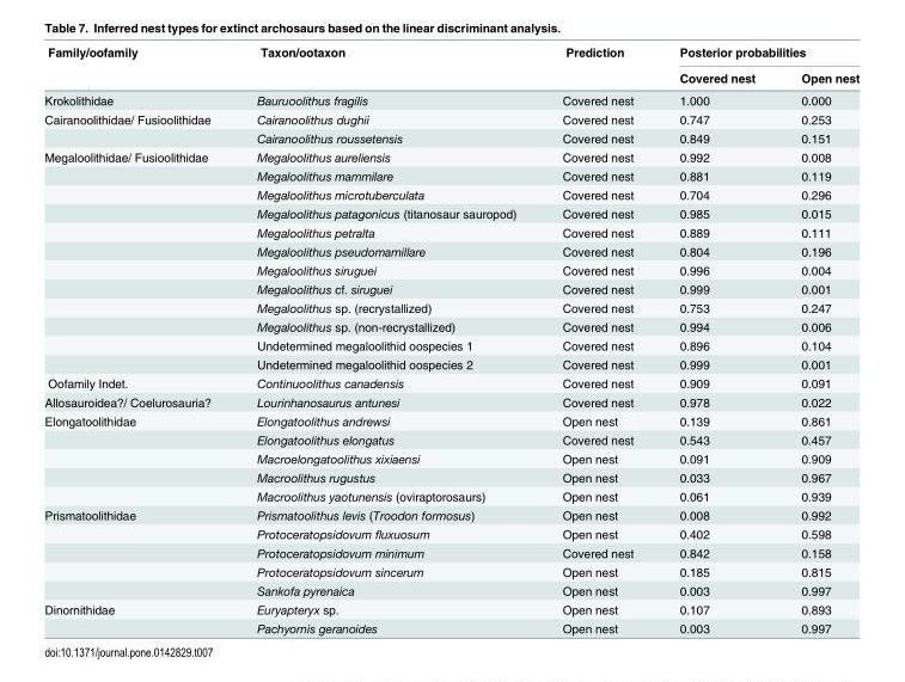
<table><thead><tr><td rowspan="2">Family/oofamily</td><td rowspan="2">Taxon/ootaxon</td><td rowspan="2">Prediction</td><td colspan="2">Posterior probabilities</td></tr><tr><td>Covered nest</td><td>Open nest</td></tr></thead><tbody><tr><td>Krokolithidae</td><td>Bauruoolithus fragilis</td><td>Covered nest</td><td>1.000</td><td>0.000</td></tr><tr><td rowspan="2">Cairanoolithidae/ Fusioolithidae</td><td>Cairanoolithus dughii</td><td>Covered nest</td><td>0.747</td><td>0.253</td></tr><tr><td>Cairanoolithus roussetensis</td><td>Covered nest</td><td>0.849</td><td>0.151</td></tr><tr><td rowspan="12">Megaloolithidae/ Fusioolithidae</td><td>Megaloolithus aureliensis</td><td>Covered nest</td><td>0.992</td><td>0.008</td></tr><tr><td>Megaloolithus mammilare</td><td>Covered nest</td><td>0.881</td><td>0.119</td></tr><tr><td>Megaloolithus microtuberculata</td><td>Covered nest</td><td>0.704</td><td>0.296</td></tr><tr><td>Megaloolithus patagonicus (titanosaur sauropod)</td><td>Covered nest</td><td>0.985</td><td>0.015</td></tr><tr><td>Megaloolithus petralta</td><td>Covered nest</td><td>0.889</td><td>0.111</td></tr><tr><td>Megaloolithus pseudomamillare</td><td>Covered nest</td><td>0.804</td><td>0.196</td></tr><tr><td>Megaloolithus siruguei</td><td>Covered nest</td><td>0.996</td><td>0.004</td></tr><tr><td>Megaloolithus cf. siruguei</td><td>Covered nest</td><td>0.999</td><td>0.001</td></tr><tr><td>Megaloolithus sp. (recrystallized)</td><td>Covered nest</td><td>0.753</td><td>0.247</td></tr><tr><td>Megaloolithus sp. (non-recrystallized)</td><td>Covered nest</td><td>0.994</td><td>0.006</td></tr><tr><td>Undetermined megaloolithid oospecies 1</td><td>Covered nest</td><td>0.896</td><td>0.104</td></tr><tr><td>Undetermined megaloolithid oospecies 2</td><td>Covered nest</td><td>0.999</td><td>0.001</td></tr><tr><td>Oofamily Indet.</td><td>Continuoolithus canadensis</td><td>Covered nest</td><td>0.909</td><td>0.091</td></tr><tr><td>Allosauroidea?/ Coelurosauria?</td><td>Lourinhanosaurus antunesi</td><td>Covered nest</td><td>0.978</td><td>0.022</td></tr><tr><td rowspan="5">Elongatoolithidae</td><td>Elongatoolithus andrewsi</td><td>Open nest</td><td>0.139</td><td>0.861</td></tr><tr><td>Elongatoolithus elongatus</td><td>Covered nest</td><td>0.543</td><td>0.457</td></tr><tr><td>Macroelongatoolithus xixiaensi</td><td>Open nest</td><td>0.091</td><td>0.909</td></tr><tr><td>Macroolithus rugustus</td><td>Open nest</td><td>0.033</td><td>0.967</td></tr><tr><td>Macroolithus yaotunensis (oviraptorosaurs)</td><td>Open nest</td><td>0.061</td><td>0.939</td></tr><tr><td rowspan="5">Prismatoolithidae</td><td>Prismatoolithus levis (Troodon formosus)</td><td>Open nest</td><td>0.008</td><td>0.992</td></tr><tr><td>Protoceratopsidovum fluxuosum</td><td>Open nest</td><td>0.402</td><td>0.598</td></tr><tr><td>Protoceratopsidovum minimum</td><td>Covered nest</td><td>0.842</td><td>0.158</td></tr><tr><td>Protoceratopsidovum sincerum</td><td>Open nest</td><td>0.185</td><td>0.815</td></tr><tr><td>Sankofa pyrenaica</td><td>Open nest</td><td>0.003</td><td>0.997</td></tr><tr><td rowspan="2">Dinornithidae</td><td>Euryapteryx sp.</td><td>Open nest</td><td>0.107</td><td>0.893</td></tr><tr><td>Pachyornis geranoides</td><td>Open nest</td><td>0.003</td><td>0.997</td></tr></tbody></table>